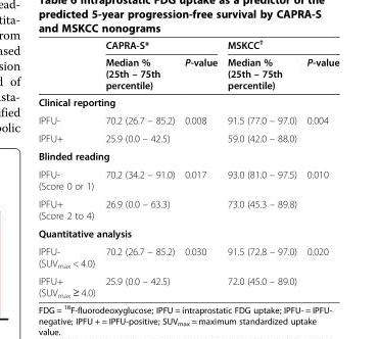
<table><thead><tr><td rowspan="2"></td><td colspan="2">CAPRA-S*</td><td colspan="2">MSKCC<sup>†</sup></td></tr><tr><td>Median % (25th – 75th percentile)</td><td>P-value</td><td>Median % (25th – 75th percentile)</td><td>P-value</td></tr></thead><tbody><tr><td colspan="5">Clinical reporting</td></tr><tr><td>IPFU-</td><td>70.2 (26.7 – 85.2)</td><td>0.008</td><td>91.5 (77.0 – 97.0)</td><td>0.004</td></tr><tr><td>IPFU+</td><td>25.9 (0.0 – 42.5)</td><td></td><td>59.0 (42.0 – 88.0)</td><td></td></tr><tr><td colspan="5">Blinded reading</td></tr><tr><td>IPFU- (Score 0 or 1)</td><td>70.2 (34.2 – 91.0)</td><td>0.017</td><td>93.0 (81.0 – 97.5)</td><td>0.010</td></tr><tr><td>IPFU+ (Score 2 to 4)</td><td>26.9 (0.0 – 63.3)</td><td></td><td>73.0 (45.3 – 89.8)</td><td></td></tr><tr><td colspan="5">Quantitative analysis</td></tr><tr><td>IPFU- (SUV<sub>max</sub> &lt; 4.0)</td><td>70.2 (26.7 – 85.2)</td><td>0.030</td><td>91.5 (72.8 – 97.0)</td><td>0.020</td></tr><tr><td>IPFU+ (SUV<sub>max</sub> ≥ 4.0)</td><td>25.9 (0.0 – 42.5)</td><td></td><td>72.0 (45.0 – 89.0)</td><td></td></tr></tbody></table>